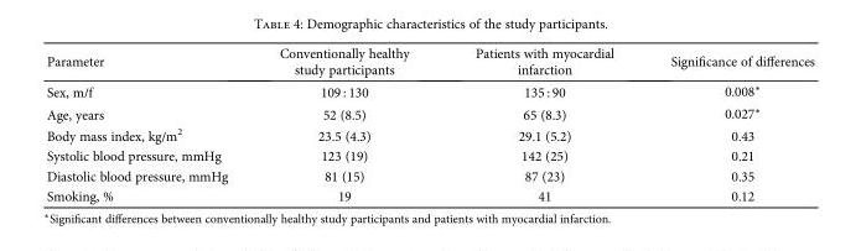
<table><thead><tr><td>Parameter</td><td>Conventionally healthy study participants</td><td>Patients with myocardial infarction</td><td>Significance of differences</td></tr></thead><tbody><tr><td>Sex, m/f</td><td>109 : 130</td><td>135 : 90</td><td>0.008∗</td></tr><tr><td>Age, years</td><td>52 (8.5)</td><td>65 (8.3)</td><td>0.027∗</td></tr><tr><td>Body mass index, kg/m<sup>2</sup></td><td>23.5 (4.3)</td><td>29.1 (5.2)</td><td>0.43</td></tr><tr><td>Systolic blood pressure, mmHg</td><td>123 (19)</td><td>142 (25)</td><td>0.21</td></tr><tr><td>Diastolic blood pressure, mmHg</td><td>81 (15)</td><td>87 (23)</td><td>0.35</td></tr><tr><td>Smoking, %</td><td>19</td><td>41</td><td>0.12</td></tr></tbody></table>